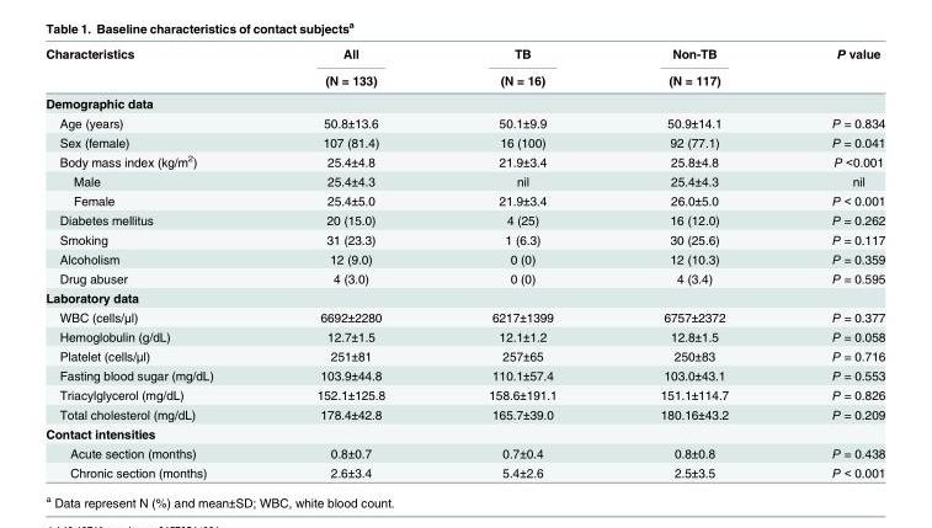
<table><thead><tr><td rowspan="2">Characteristics</td><td rowspan="2">All (N = 133)</td><td rowspan="2">TB (N = 16)</td><td rowspan="2">Non-TB (N = 117)</td><td rowspan="2">P value</td></tr><tr></tr></thead><tbody><tr><td colspan="5">Demographic data</td></tr><tr><td>Age (years)</td><td>50.8±13.6</td><td>50.1±9.9</td><td>50.9±14.1</td><td>P = 0.834</td></tr><tr><td>Sex (female)</td><td>107 (81.4)</td><td>16 (100)</td><td>92 (77.1)</td><td>P = 0.041</td></tr><tr><td>Body mass index (kg/m<sup>2</sup>)</td><td>25.4±4.8</td><td>21.9±3.4</td><td>25.8±4.8</td><td>P &lt;0.001</td></tr><tr><td>Male</td><td>25.4±4.3</td><td>nil</td><td>25.4±4.3</td><td>nil</td></tr><tr><td>Female</td><td>25.4±5.0</td><td>21.9±3.4</td><td>26.0±5.0</td><td>P &lt; 0.001</td></tr><tr><td>Diabetes mellitus</td><td>20 (15.0)</td><td>4 (25)</td><td>16 (12.0)</td><td>P = 0.262</td></tr><tr><td>Smoking</td><td>31 (23.3)</td><td>1 (6.3)</td><td>30 (25.6)</td><td>P = 0.117</td></tr><tr><td>Alcoholism</td><td>12 (9.0)</td><td>0 (0)</td><td>12 (10.3)</td><td>P = 0.359</td></tr><tr><td>Drug abuser</td><td>4 (3.0)</td><td>0 (0)</td><td>4 (3.4)</td><td>P = 0.595</td></tr><tr><td colspan="5">Laboratory data</td></tr><tr><td>WBC (cells/μl)</td><td>6692±2280</td><td>6217±1399</td><td>6757±2372</td><td>P = 0.377</td></tr><tr><td>Hemoglobulin (g/dL)</td><td>12.7±1.5</td><td>12.1±1.2</td><td>12.8±1.5</td><td>P = 0.058</td></tr><tr><td>Platelet (cells/μl)</td><td>251±81</td><td>257±65</td><td>250±83</td><td>P = 0.716</td></tr><tr><td>Fasting blood sugar (mg/dL)</td><td>103.9±44.8</td><td>110.1±57.4</td><td>103.0±43.1</td><td>P = 0.553</td></tr><tr><td>Triacylglycerol (mg/dL)</td><td>152.1±125.8</td><td>158.6±191.1</td><td>151.1±114.7</td><td>P = 0.826</td></tr><tr><td>Total cholesterol (mg/dL)</td><td>178.4±42.8</td><td>165.7±39.0</td><td>180.16±43.2</td><td>P = 0.209</td></tr><tr><td colspan="5">Contact intensities</td></tr><tr><td>Acute section (months)</td><td>0.8±0.7</td><td>0.7±0.4</td><td>0.8±0.8</td><td>P = 0.438</td></tr><tr><td>Chronic section (months)</td><td>2.6±3.4</td><td>5.4±2.6</td><td>2.5±3.5</td><td>P &lt; 0.001</td></tr></tbody></table>